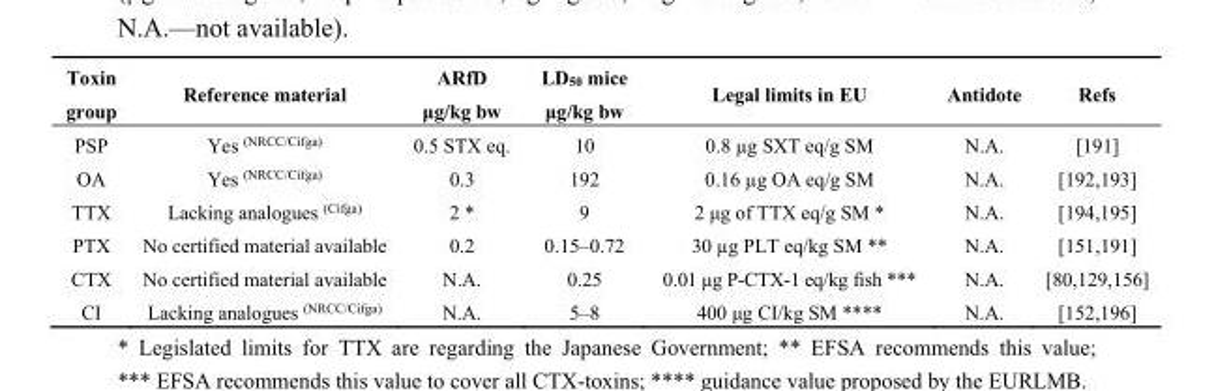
<table><thead><tr><td>Toxin group</td><td>Reference material</td><td>ARfD μg/kg bw</td><td>LD<sub>50</sub> mice μg/kg bw</td><td>Legal limits in EU</td><td>Antidote</td><td>Refs</td></tr></thead><tbody><tr><td>PSP</td><td>Yes <sup>(NRCC/Cifga)</sup></td><td>0.5 STX eq.</td><td>10</td><td>0.8 µg SXT eq/g SM</td><td>N.A.</td><td>[191]</td></tr><tr><td>OA</td><td>Yes <sup>(NRCC/Cifga)</sup></td><td>0.3</td><td>192</td><td>0.16 µg OA eq/g SM</td><td>N.A.</td><td>[192,193]</td></tr><tr><td>TTX</td><td>Lacking analogues <sup>(Cifga)</sup></td><td>2 *</td><td>9</td><td>2 μg of TTX eq/g SM *</td><td>N.A.</td><td>[194,195]</td></tr><tr><td>PTX</td><td>No certified material available</td><td>0.2</td><td>0.15–0.72</td><td>30 µg PLT eq/kg SM **</td><td>N.A.</td><td>[151,191]</td></tr><tr><td>CTX</td><td>No certified material available</td><td>N.A.</td><td>0.25</td><td>0.01 μg P-CTX-1 eq/kg fish ***</td><td>N.A.</td><td>[80,129,156]</td></tr><tr><td>CI</td><td>Lacking analogues <sup>(NRCC/Cifga)</sup></td><td>N.A.</td><td>5–8</td><td>400 μg CI/kg SM ****</td><td>N.A.</td><td>[152,196]</td></tr></tbody></table>